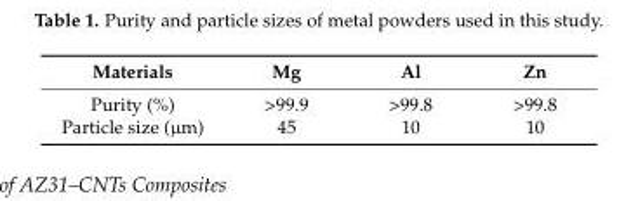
<table><thead><tr><td>Materials</td><td>Mg</td><td>Al</td><td>Zn</td></tr></thead><tbody><tr><td>Purity (%)</td><td>&gt;99.9</td><td>&gt;99.8</td><td>&gt;99.8</td></tr><tr><td>Particle size (µm)</td><td>45</td><td>10</td><td>10</td></tr></tbody></table>